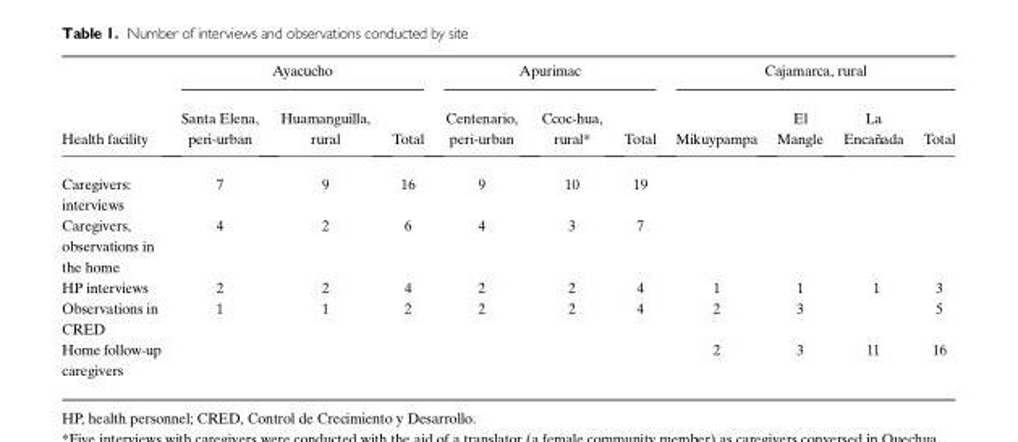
<table><thead><tr><td rowspan="2">Health facility</td><td colspan="3">Ayacucho</td><td colspan="3">Apurimac</td><td colspan="4">Cajamarca, rural</td></tr><tr><td>Santa Elena, peri-urban</td><td>Huamanguilla, rural</td><td>Total</td><td>Centenario, peri-urban</td><td>Ccoc-hua, rural*</td><td>Total</td><td>Mikuypampa</td><td>El Mangle</td><td>La Encañada</td><td>Total</td></tr></thead><tbody><tr><td>Caregivers: interviews</td><td>7</td><td>9</td><td>16</td><td>9</td><td>10</td><td>19</td><td></td><td></td><td></td><td></td></tr><tr><td>Caregivers, observations in the home</td><td>4</td><td>2</td><td>6</td><td>4</td><td>3</td><td>7</td><td></td><td></td><td></td><td></td></tr><tr><td>HP interviews</td><td>2</td><td>2</td><td>4</td><td>2</td><td>2</td><td>4</td><td>1</td><td>1</td><td>1</td><td>3</td></tr><tr><td>Observations in CRED</td><td>1</td><td>1</td><td>2</td><td>2</td><td>2</td><td>4</td><td>2</td><td>3</td><td></td><td>5</td></tr><tr><td>Home follow-up caregivers</td><td></td><td></td><td></td><td></td><td></td><td></td><td>2</td><td>3</td><td>11</td><td>16</td></tr></tbody></table>